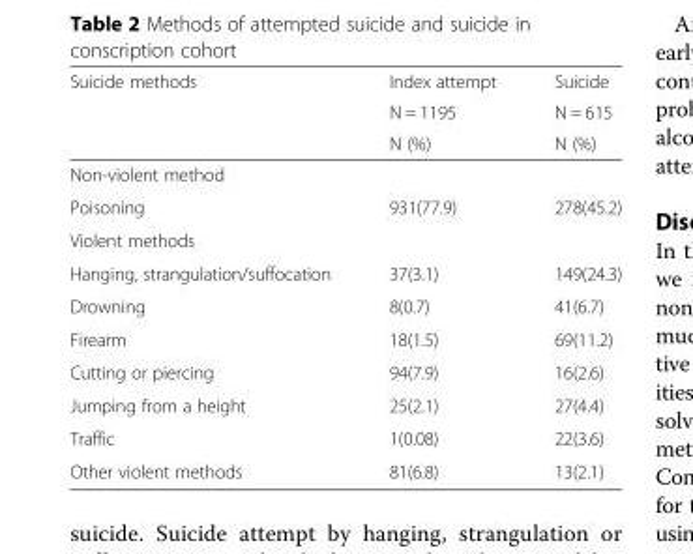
<table><thead><tr><td rowspan="3">Suicide methods</td><td rowspan="3">Index attempt N = 1195 N (%)</td><td rowspan="3">Suicide N = 615 N (%)</td></tr><tr></tr><tr></tr></thead><tbody><tr><td colspan="3">Non-violent method</td></tr><tr><td>Poisoning</td><td>931(77.9)</td><td>278(45.2)</td></tr><tr><td colspan="3">Violent methods</td></tr><tr><td>Hanging, strangulation/suffocation</td><td>37(3.1)</td><td>149(24.3)</td></tr><tr><td>Drowning</td><td>8(0.7)</td><td>41(6.7)</td></tr><tr><td>Firearm</td><td>18(1.5)</td><td>69(11.2)</td></tr><tr><td>Cutting or piercing</td><td>94(7.9)</td><td>16(2.6)</td></tr><tr><td>Jumping from a height</td><td>25(2.1)</td><td>27(4.4)</td></tr><tr><td>Traffic</td><td>1(0.08)</td><td>22(3.6)</td></tr><tr><td>Other violent methods</td><td>81(6.8)</td><td>13(2.1)</td></tr></tbody></table>